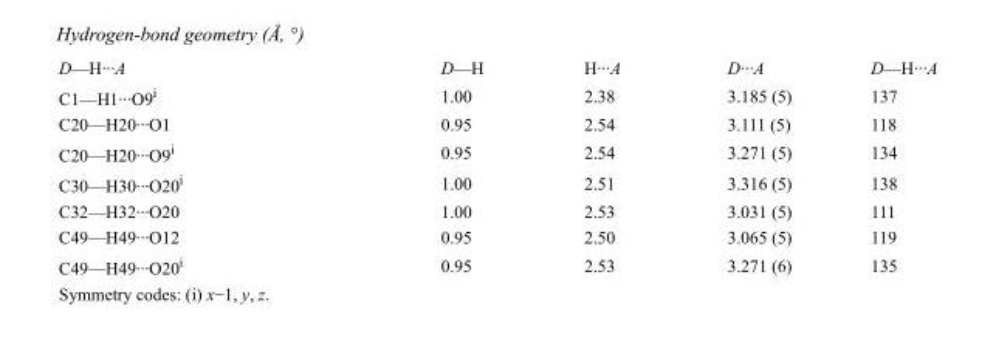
<table><tbody><tr><td>D—H···A</td><td>D—H</td><td>H···A</td><td>D···A</td><td>D—H···A</td></tr><tr><td>C1—H1···O9<sup>i</sup></td><td>1.00</td><td>2.38</td><td>3.185 (5)</td><td>137</td></tr><tr><td>C20—H20···O1</td><td>0.95</td><td>2.54</td><td>3.111 (5)</td><td>118</td></tr><tr><td>C20—H20···O9<sup>i</sup></td><td>0.95</td><td>2.54</td><td>3.271 (5)</td><td>134</td></tr><tr><td>C30—H30···O20<sup>i</sup></td><td>1.00</td><td>2.51</td><td>3.316 (5)</td><td>138</td></tr><tr><td>C32—H32···O20</td><td>1.00</td><td>2.53</td><td>3.031 (5)</td><td>111</td></tr><tr><td>C49—H49···O12</td><td>0.95</td><td>2.50</td><td>3.065 (5)</td><td>119</td></tr><tr><td>C49—H49···O20<sup>i</sup></td><td>0.95</td><td>2.53</td><td>3.271 (6)</td><td>135</td></tr></tbody></table>